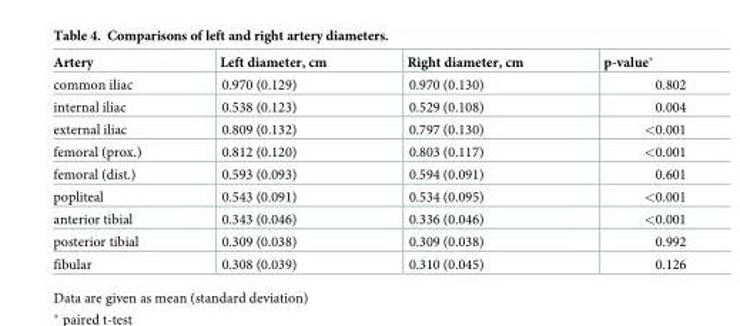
<table><thead><tr><td>Artery</td><td>Left diameter, cm</td><td>Right diameter, cm</td><td>p-value*</td></tr></thead><tbody><tr><td>common iliac</td><td>0.970 (0.129)</td><td>0.970 (0.130)</td><td>0.802</td></tr><tr><td>internal iliac</td><td>0.538 (0.123)</td><td>0.529 (0.108)</td><td>0.004</td></tr><tr><td>external iliac</td><td>0.809 (0.132)</td><td>0.797 (0.130)</td><td>&lt;0.001</td></tr><tr><td>femoral (prox.)</td><td>0.812 (0.120)</td><td>0.803 (0.117)</td><td>&lt;0.001</td></tr><tr><td>femoral (dist.)</td><td>0.593 (0.093)</td><td>0.594 (0.091)</td><td>0.601</td></tr><tr><td>popliteal</td><td>0.543 (0.091)</td><td>0.534 (0.095)</td><td>&lt;0.001</td></tr><tr><td>anterior tibial</td><td>0.343 (0.046)</td><td>0.336 (0.046)</td><td>&lt;0.001</td></tr><tr><td>posterior tibial</td><td>0.309 (0.038)</td><td>0.309 (0.038)</td><td>0.992</td></tr><tr><td>fibular</td><td>0.308 (0.039)</td><td>0.310 (0.045)</td><td>0.126</td></tr></tbody></table>